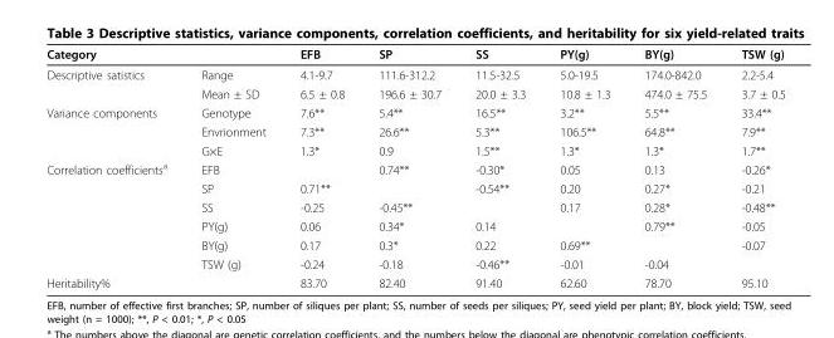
<table><thead><tr><td>Category</td><td></td><td>EFB</td><td>SP</td><td>SS</td><td>PY(g)</td><td>BY(g)</td><td>TSW (g)</td></tr></thead><tbody><tr><td rowspan="2">Descriptive satistics</td><td>Range</td><td>4.1-9.7</td><td>111.6-312.2</td><td>11.5-32.5</td><td>5.0-19.5</td><td>174.0-842.0</td><td>2.2-5.4</td></tr><tr><td>Mean ± SD</td><td>6.5 ± 0.8</td><td>196.6 ± 30.7</td><td>20.0 ± 3.3</td><td>10.8 ± 1.3</td><td>474.0 ± 75.5</td><td>3.7 ± 0.5</td></tr><tr><td rowspan="3">Variance components</td><td>Genotype</td><td>7.6**</td><td>5.4**</td><td>16.5**</td><td>3.2**</td><td>5.5**</td><td>33.4**</td></tr><tr><td>Envrionment</td><td>7.3**</td><td>26.6**</td><td>5.3**</td><td>106.5**</td><td>64.8**</td><td>7.9**</td></tr><tr><td>G×E</td><td>1.3*</td><td>0.9</td><td>1.5**</td><td>1.3*</td><td>1.3*</td><td>1.7**</td></tr><tr><td rowspan="6">Correlation coefficients<sup>a</sup></td><td>EFB</td><td></td><td>0.74**</td><td>-0.30*</td><td>0.05</td><td>0.13</td><td>-0.26*</td></tr><tr><td>SP</td><td>0.71**</td><td></td><td>-0.54**</td><td>0.20</td><td>0.27*</td><td>-0.21</td></tr><tr><td>SS</td><td>-0.25</td><td>-0.45**</td><td></td><td>0.17</td><td>0.28*</td><td>-0.48**</td></tr><tr><td>PY(g)</td><td>0.06</td><td>0.34*</td><td>0.14</td><td></td><td>0.79**</td><td>-0.05</td></tr><tr><td>BY(g)</td><td>0.17</td><td>0.3*</td><td>0.22</td><td>0.69**</td><td></td><td>-0.07</td></tr><tr><td>TSW (g)</td><td>-0.24</td><td>-0.18</td><td>-0.46**</td><td>-0.01</td><td>-0.04</td><td></td></tr><tr><td>Heritability%</td><td></td><td>83.70</td><td>82.40</td><td>91.40</td><td>62.60</td><td>78.70</td><td>95.10</td></tr></tbody></table>